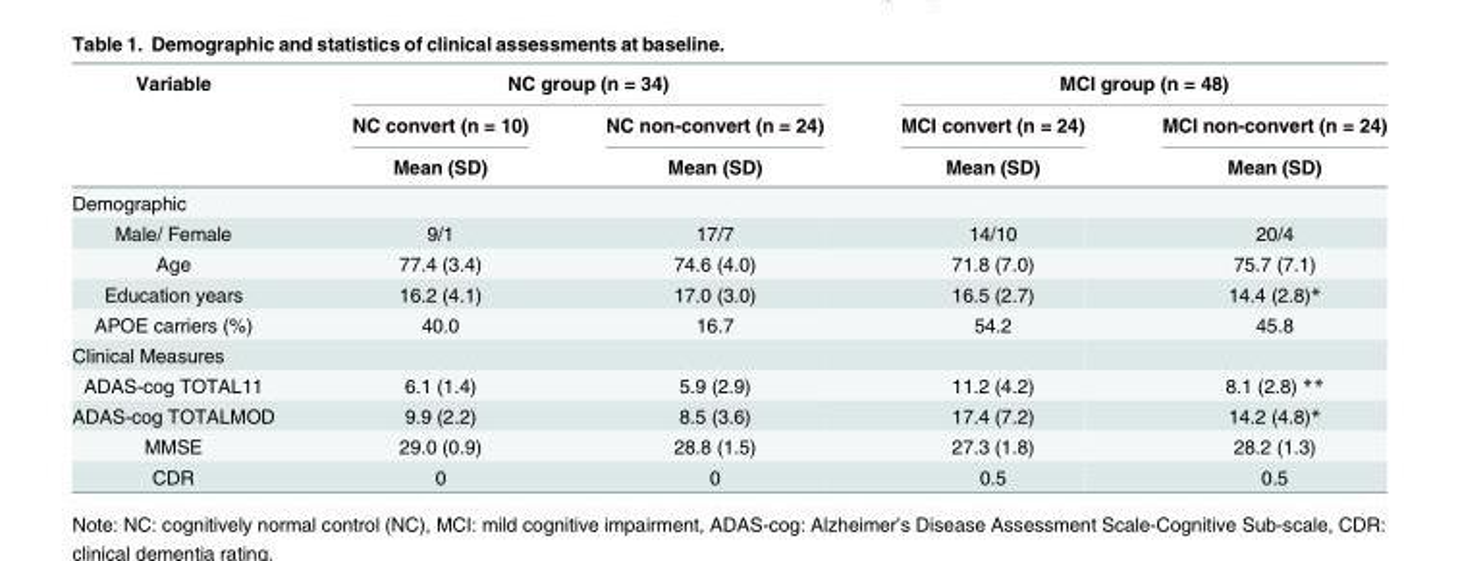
<table><thead><tr><td rowspan="3">Variable</td><td colspan="2">NC group (n = 34)</td><td colspan="2">MCI group (n = 48)</td></tr><tr><td rowspan="2">NC convert (n = 10) Mean (SD)</td><td rowspan="2">NC non-convert (n = 24) Mean (SD)</td><td rowspan="2">MCI convert (n = 24) Mean (SD)</td><td rowspan="2">MCI non-convert (n = 24) Mean (SD)</td></tr><tr></tr></thead><tbody><tr><td colspan="5">Demographic</td></tr><tr><td>Male/ Female</td><td>9/1</td><td>17/7</td><td>14/10</td><td>20/4</td></tr><tr><td>Age</td><td>77.4 (3.4)</td><td>74.6 (4.0)</td><td>71.8 (7.0)</td><td>75.7 (7.1)</td></tr><tr><td>Education years</td><td>16.2 (4.1)</td><td>17.0 (3.0)</td><td>16.5 (2.7)</td><td>14.4 (2.8)*</td></tr><tr><td>APOE carriers (%)</td><td>40.0</td><td>16.7</td><td>54.2</td><td>45.8</td></tr><tr><td colspan="5">Clinical Measures</td></tr><tr><td>ADAS-cog TOTAL11</td><td>6.1 (1.4)</td><td>5.9 (2.9)</td><td>11.2 (4.2)</td><td>8.1 (2.8) **</td></tr><tr><td>ADAS-cog TOTALMOD</td><td>9.9 (2.2)</td><td>8.5 (3.6)</td><td>17.4 (7.2)</td><td>14.2 (4.8)*</td></tr><tr><td>MMSE</td><td>29.0 (0.9)</td><td>28.8 (1.5)</td><td>27.3 (1.8)</td><td>28.2 (1.3)</td></tr><tr><td>CDR</td><td>0</td><td>0</td><td>0.5</td><td>0.5</td></tr></tbody></table>